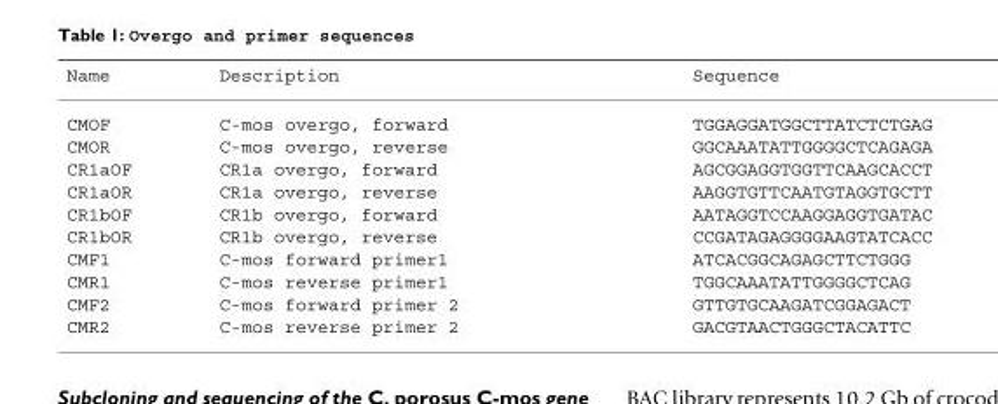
<table><thead><tr><td>Name</td><td>Description</td><td>Sequence</td></tr></thead><tbody><tr><td>CMOF</td><td>C-mos overgo, forward</td><td>TGGAGGATGGCTTATCTCTGAG</td></tr><tr><td>CMOR</td><td>C-mos overgo, reverse</td><td>GGCAAATATTGGGGCTCAGAGA</td></tr><tr><td>CR1aOF</td><td>CR1a overgo, forward</td><td>AGCGGAGGTGGTTCAAGCACCT</td></tr><tr><td>CR1aOR</td><td>CR1a overgo, reverse</td><td>AAGGTGTTCAATGTAGGTGCTT</td></tr><tr><td>CR1bOF</td><td>CR1b overgo, forward</td><td>AATAGGTCCAAGGAGGTGATAC</td></tr><tr><td>CR1bOR</td><td>CR1b overgo, reverse</td><td>CCGATAGAGGGGAAGTATCACC</td></tr><tr><td>CMF1</td><td>C-mos forward primer1</td><td>ATCACGGCAGAGCTTCTGGG</td></tr><tr><td>CMR1</td><td>C-mos reverse primer1</td><td>TGGCAAATATTGGGGCTCAG</td></tr><tr><td>CMF2</td><td>C-mos forward primer 2</td><td>GTTGTGCAAGATCGGAGACT</td></tr><tr><td>CMR2</td><td>C-mos reverse primer 2</td><td>GACGTAACTGGGCTACATTC</td></tr></tbody></table>